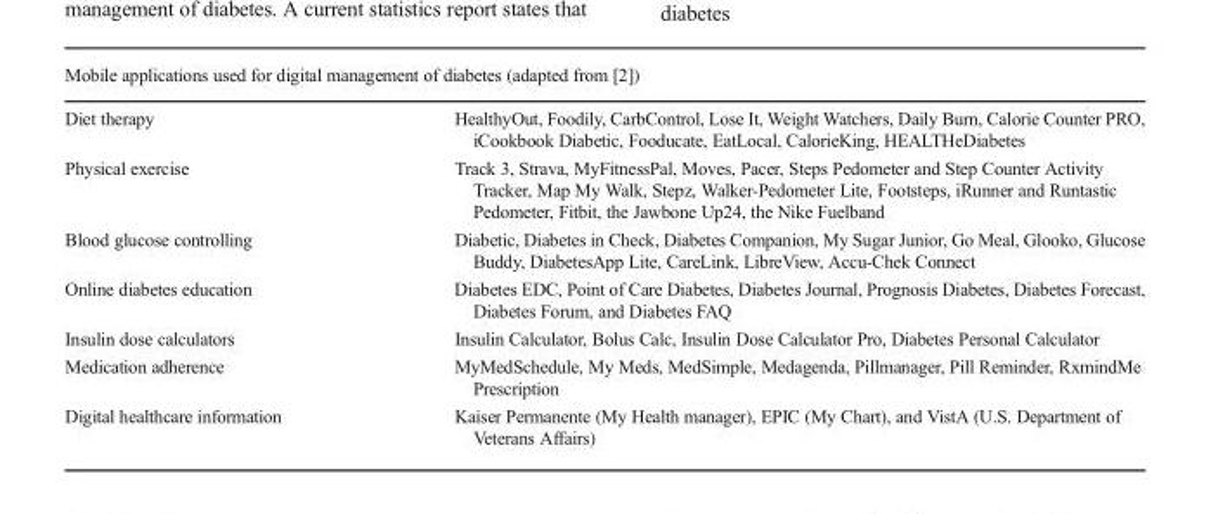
<table><thead><tr><td colspan="2">Mobile applications used for digital management of diabetes (adapted from [2])</td></tr><tr><td>Diet therapy</td><td>HealthyOut, Foodily, CarbControl, Lose It, Weight Watchers, Daily Burn, Calorie Counter PRO, iCookbook Diabetic, Fooducate, EatLocal, CalorieKing, HEALTHeDiabetes</td></tr></thead><tbody><tr><td>Physical exercise</td><td>Track 3, Strava, MyFitnessPal, Moves, Pacer, Steps Pedometer and Step Counter Activity Tracker, Map My Walk, Stepz, Walker-Pedometer Lite, Footsteps, iRunner and Runtastic Pedometer, Fitbit, the Jawbone Up24, the Nike Fuelband</td></tr><tr><td>Blood glucose controlling</td><td>Diabetic, Diabetes in Check, Diabetes Companion, My Sugar Junior, Go Meal, Glooko, Glucose Buddy, DiabetesApp Lite, CareLink, LibreView, Accu-Chek Connect</td></tr><tr><td>Online diabetes education</td><td>Diabetes EDC, Point of Care Diabetes, Diabetes Journal, Prognosis Diabetes, Diabetes Forecast, Diabetes Forum, and Diabetes FAQ</td></tr><tr><td>Insulin dose calculators</td><td>Insulin Calculator, Bolus Calc, Insulin Dose Calculator Pro, Diabetes Personal Calculator</td></tr><tr><td>Medication adherence</td><td>MyMedSchedule, My Meds, MedSimple, Medagenda, Pillmanager, Pill Reminder, RxmindMe Prescription</td></tr><tr><td>Digital healthcare information</td><td>Kaiser Permanente (My Health manager), EPIC (My Chart), and VistA (U.S. Department of Veterans Affairs)</td></tr></tbody></table>